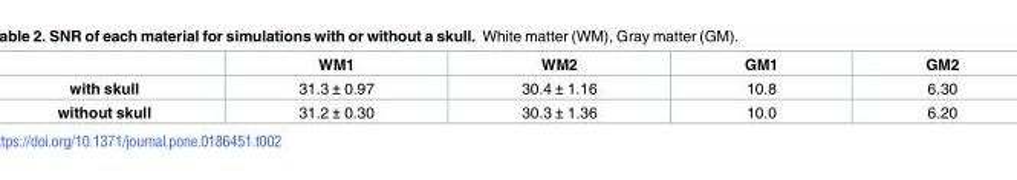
<table><thead><tr><td></td><td>WM1</td><td>WM2</td><td>GM1</td><td>GM2</td></tr></thead><tbody><tr><td>with skull</td><td>31.3 ± 0.97</td><td>30.4 ± 1.16</td><td>10.8</td><td>6.30</td></tr><tr><td>without skull</td><td>31.2 ± 0.30</td><td>30.3 ± 1.36</td><td>10.0</td><td>6.20</td></tr></tbody></table>